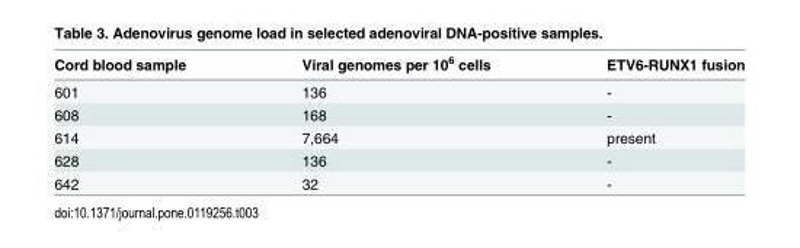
<table><thead><tr><td>Cord blood sample</td><td>Viral genomes per 10<sup>6</sup> cells</td><td>ETV6-RUNX1 fusion</td></tr></thead><tbody><tr><td>601</td><td>136</td><td>-</td></tr><tr><td>608</td><td>168</td><td>-</td></tr><tr><td>614</td><td>7,664</td><td>present</td></tr><tr><td>628</td><td>136</td><td>-</td></tr><tr><td>642</td><td>32</td><td>-</td></tr></tbody></table>